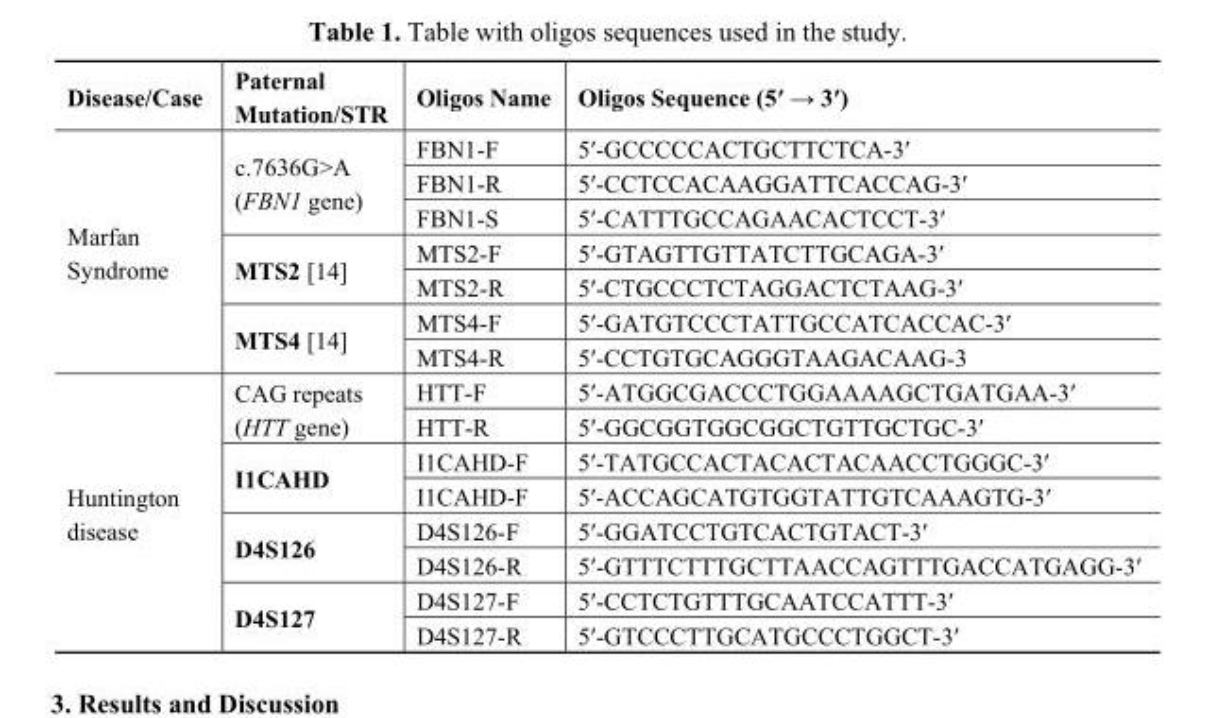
<table><thead><tr><td>Disease/Case</td><td>Paternal Mutation/STR</td><td>Oligos Name</td><td>Oligos Sequence (5′ → 3′)</td></tr></thead><tbody><tr><td rowspan="7">Marfan Syndrome</td><td rowspan="3">c.7636G&gt;A (FBN1 gene)</td><td>FBN1-F</td><td>5′-GCCCCCACTGCTTCTCA-3′</td></tr><tr><td>FBN1-R</td><td>5′-CCTCCACAAGGATTCACCAG-3′</td></tr><tr><td>FBN1-S</td><td>5′-CATTTGCCAGAACACTCCT-3′</td></tr><tr><td rowspan="2">MTS2 [14]</td><td>MTS2-F</td><td>5′-GTAGTTGTTATCTTGCAGA-3′</td></tr><tr><td>MTS2-R</td><td>5′-CTGCCCTCTAGGACTCTAAG-3′</td></tr><tr><td rowspan="2">MTS4 [14]</td><td>MTS4-F</td><td>5′-GATGTCCCTATTGCCATCACCAC-3′</td></tr><tr><td>MTS4-R</td><td>5′-CCTGTGCAGGGTAAGACAAG-3</td></tr><tr><td rowspan="8">Huntington disease</td><td rowspan="2">CAG repeats (HTT gene)</td><td>HTT-F</td><td>5′-ATGGCGACCCTGGAAAAGCTGATGAA-3′</td></tr><tr><td>HTT-R</td><td>5′-GGCGGTGGCGGCTGTTGCTGC-3′</td></tr><tr><td rowspan="2">I1CAHD</td><td>I1CAHD-F</td><td>5′-TATGCCACTACACTACAACCTGGGC-3′</td></tr><tr><td>I1CAHD-F</td><td>5′-ACCAGCATGTGGTATTGTCAAAGTG-3′</td></tr><tr><td rowspan="2">D4S126</td><td>D4S126-F</td><td>5′-GGATCCTGTCACTGTACT-3′</td></tr><tr><td>D4S126-R</td><td>5′-GTTTCTTTGCTTAACCAGTTTGACCATGAGG-3′</td></tr><tr><td rowspan="2">D4S127</td><td>D4S127-F</td><td>5′-CCTCTGTTTGCAATCCATTT-3′</td></tr><tr><td>D4S127-R</td><td>5′-GTCCCTTGCATGCCCTGGCT-3′</td></tr></tbody></table>